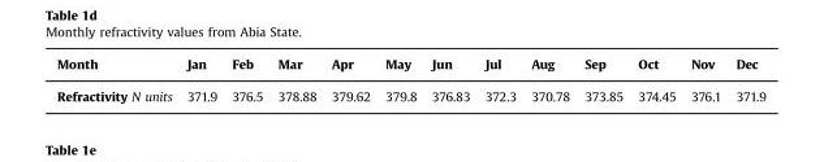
<table><thead><tr><td>Month</td><td>Jan</td><td>Feb</td><td>Mar</td><td>Apr</td><td>May</td><td>Jun</td><td>Jul</td><td>Aug</td><td>Sep</td><td>Oct</td><td>Nov</td><td>Dec</td></tr></thead><tbody><tr><td>Refractivity N units</td><td>371.9</td><td>376.5</td><td>378.88</td><td>379.62</td><td>379.8</td><td>376.83</td><td>372.3</td><td>370.78</td><td>373.85</td><td>374.45</td><td>376.1</td><td>371.9</td></tr></tbody></table>